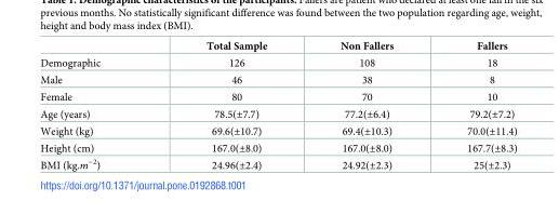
<table><thead><tr><td></td><td>Total Sample</td><td>Non Fallers</td><td>Fallers</td></tr></thead><tbody><tr><td>Demographic</td><td>126</td><td>108</td><td>18</td></tr><tr><td>Male</td><td>46</td><td>38</td><td>8</td></tr><tr><td>Female</td><td>80</td><td>70</td><td>10</td></tr><tr><td>Age (years)</td><td>78.5(±7.7)</td><td>77.2(±6.4)</td><td>79.2(±7.2)</td></tr><tr><td>Weight (kg)</td><td>69.6(±10.7)</td><td>69.4(±10.3)</td><td>70.0(±11.4)</td></tr><tr><td>Height (cm)</td><td>167.0(±8.0)</td><td>167.0(±8.0)</td><td>167.7(±8.3)</td></tr><tr><td>BMI (kg.m<sup>−2</sup>)</td><td>24.96(±2.4)</td><td>24.92(±2.3)</td><td>25(±2.3)</td></tr></tbody></table>